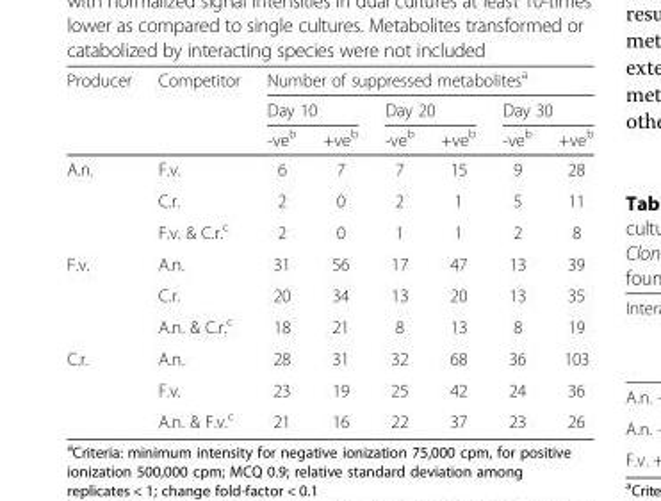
<table><thead><tr><td rowspan="3">Producer</td><td rowspan="3">Competitor</td><td colspan="6">Number of suppressed metabolites<sup>a</sup></td></tr><tr><td colspan="2">Day 10</td><td colspan="2">Day 20</td><td colspan="2">Day 30</td></tr><tr><td>-ve<sup>b</sup></td><td>+ve<sup>b</sup></td><td>-ve<sup>b</sup></td><td>+ve<sup>b</sup></td><td>-ve<sup>b</sup></td><td>+ve<sup>b</sup></td></tr></thead><tbody><tr><td rowspan="3">A.n.</td><td>F.v.</td><td>6</td><td>7</td><td>7</td><td>15</td><td>9</td><td>28</td></tr><tr><td>C.r.</td><td>2</td><td>0</td><td>2</td><td>1</td><td>5</td><td>11</td></tr><tr><td>F.v. &amp; C.r.<sup>c</sup></td><td>2</td><td>0</td><td>1</td><td>1</td><td>2</td><td>8</td></tr><tr><td rowspan="3">F.v.</td><td>A.n.</td><td>31</td><td>56</td><td>17</td><td>47</td><td>13</td><td>39</td></tr><tr><td>C.r.</td><td>20</td><td>34</td><td>13</td><td>20</td><td>13</td><td>35</td></tr><tr><td>A.n. &amp; C.r.<sup>c</sup></td><td>18</td><td>21</td><td>8</td><td>13</td><td>8</td><td>19</td></tr><tr><td rowspan="3">C.r.</td><td>A.n.</td><td>28</td><td>31</td><td>32</td><td>68</td><td>36</td><td>103</td></tr><tr><td>F.v.</td><td>23</td><td>19</td><td>25</td><td>42</td><td>24</td><td>36</td></tr><tr><td>A.n. &amp; F.v.<sup>c</sup></td><td>21</td><td>16</td><td>22</td><td>37</td><td>23</td><td>26</td></tr></tbody></table>